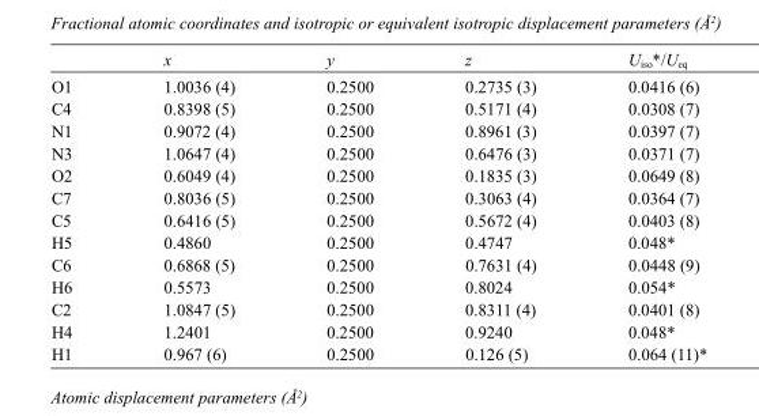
<table><thead><tr><td></td><td>x</td><td>y</td><td>z</td><td>U<sub>iso</sub>*/U<sub>eq</sub></td></tr></thead><tbody><tr><td>O1</td><td>1.0036 (4)</td><td>0.2500</td><td>0.2735 (3)</td><td>0.0416 (6)</td></tr><tr><td>C4</td><td>0.8398 (5)</td><td>0.2500</td><td>0.5171 (4)</td><td>0.0308 (7)</td></tr><tr><td>N1</td><td>0.9072 (4)</td><td>0.2500</td><td>0.8961 (3)</td><td>0.0397 (7)</td></tr><tr><td>N3</td><td>1.0647 (4)</td><td>0.2500</td><td>0.6476 (3)</td><td>0.0371 (7)</td></tr><tr><td>O2</td><td>0.6049 (4)</td><td>0.2500</td><td>0.1835 (3)</td><td>0.0649 (8)</td></tr><tr><td>C7</td><td>0.8036 (5)</td><td>0.2500</td><td>0.3063 (4)</td><td>0.0364 (7)</td></tr><tr><td>C5</td><td>0.6416 (5)</td><td>0.2500</td><td>0.5672 (4)</td><td>0.0403 (8)</td></tr><tr><td>H5</td><td>0.4860</td><td>0.2500</td><td>0.4747</td><td>0.048*</td></tr><tr><td>C6</td><td>0.6868 (5)</td><td>0.2500</td><td>0.7631 (4)</td><td>0.0448 (9)</td></tr><tr><td>H6</td><td>0.5573</td><td>0.2500</td><td>0.8024</td><td>0.054*</td></tr><tr><td>C2</td><td>1.0847 (5)</td><td>0.2500</td><td>0.8311 (4)</td><td>0.0401 (8)</td></tr><tr><td>H4</td><td>1.2401</td><td>0.2500</td><td>0.9240</td><td>0.048*</td></tr><tr><td>H1</td><td>0.967 (6)</td><td>0.2500</td><td>0.126 (5)</td><td>0.064 (11)*</td></tr></tbody></table>